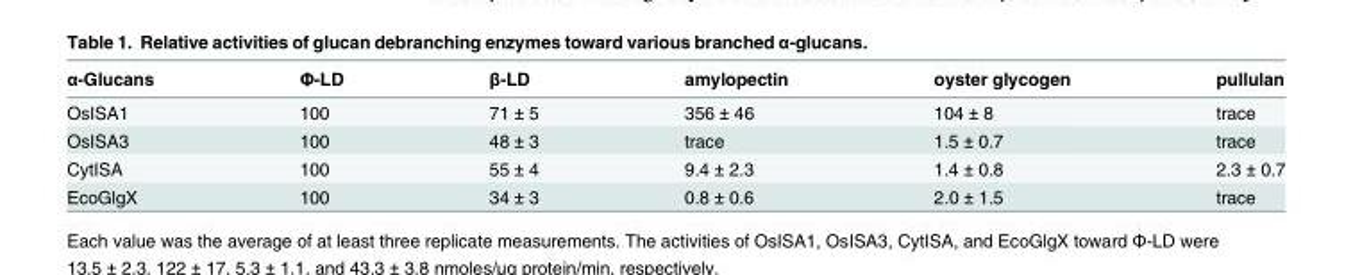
<table><thead><tr><td>α-Glucans</td><td>Φ-LD</td><td>β-LD</td><td>amylopectin</td><td>oyster glycogen</td><td>pullulan</td></tr></thead><tbody><tr><td>OsISA1</td><td>100</td><td>71 ± 5</td><td>356 ± 46</td><td>104 ± 8</td><td>trace</td></tr><tr><td>OsISA3</td><td>100</td><td>48 ± 3</td><td>trace</td><td>1.5 ± 0.7</td><td>trace</td></tr><tr><td>CytISA</td><td>100</td><td>55 ± 4</td><td>9.4 ± 2.3</td><td>1.4 ± 0.8</td><td>2.3 ± 0.7</td></tr><tr><td>EcoGlgX</td><td>100</td><td>34 ± 3</td><td>0.8 ± 0.6</td><td>2.0 ± 1.5</td><td>trace</td></tr></tbody></table>